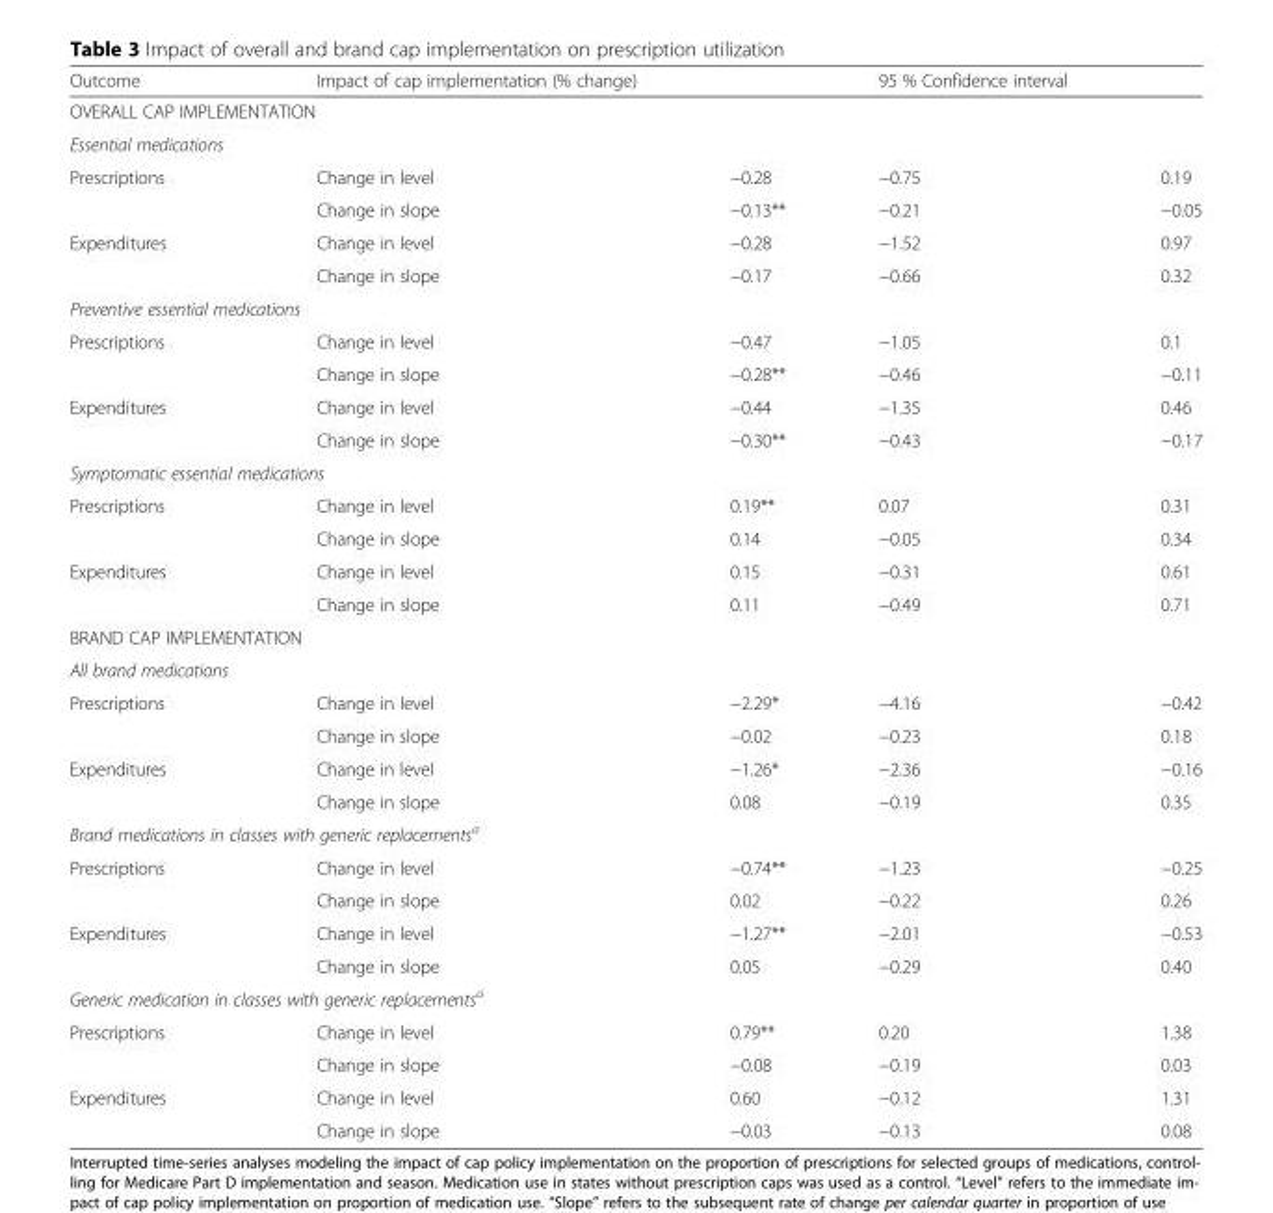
<table><thead><tr><td>Outcome</td><td>Impact of cap implementation (% change)</td><td></td><td>95 % Confidence interval</td><td></td></tr></thead><tbody><tr><td colspan="5">OVERALL CAP IMPLEMENTATION</td></tr><tr><td colspan="5">Essential medications</td></tr><tr><td rowspan="2">Prescriptions</td><td>Change in level</td><td>−0.28</td><td>−0.75</td><td>0.19</td></tr><tr><td>Change in slope</td><td>−0.13**</td><td>−0.21</td><td>−0.05</td></tr><tr><td rowspan="2">Expenditures</td><td>Change in level</td><td>−0.28</td><td>−1.52</td><td>0.97</td></tr><tr><td>Change in slope</td><td>−0.17</td><td>−0.66</td><td>0.32</td></tr><tr><td colspan="5">Preventive essential medications</td></tr><tr><td rowspan="2">Prescriptions</td><td>Change in level</td><td>−0.47</td><td>−1.05</td><td>0.1</td></tr><tr><td>Change in slope</td><td>−0.28**</td><td>−0.46</td><td>−0.11</td></tr><tr><td rowspan="2">Expenditures</td><td>Change in level</td><td>−0.44</td><td>−1.35</td><td>0.46</td></tr><tr><td>Change in slope</td><td>−0.30**</td><td>−0.43</td><td>−0.17</td></tr><tr><td colspan="5">Symptomatic essential medications</td></tr><tr><td rowspan="2">Prescriptions</td><td>Change in level</td><td>0.19**</td><td>0.07</td><td>0.31</td></tr><tr><td>Change in slope</td><td>0.14</td><td>−0.05</td><td>0.34</td></tr><tr><td rowspan="2">Expenditures</td><td>Change in level</td><td>0.15</td><td>−0.31</td><td>0.61</td></tr><tr><td>Change in slope</td><td>0.11</td><td>−0.49</td><td>0.71</td></tr><tr><td colspan="5">BRAND CAP IMPLEMENTATION</td></tr><tr><td colspan="5">All brand medications</td></tr><tr><td rowspan="2">Prescriptions</td><td>Change in level</td><td>−2.29*</td><td>−4.16</td><td>−0.42</td></tr><tr><td>Change in slope</td><td>−0.02</td><td>−0.23</td><td>0.18</td></tr><tr><td rowspan="2">Expenditures</td><td>Change in level</td><td>−1.26*</td><td>−2.36</td><td>−0.16</td></tr><tr><td>Change in slope</td><td>0.08</td><td>−0.19</td><td>0.35</td></tr><tr><td colspan="5">Brand medications in classes with generic replacements<sup>a</sup></td></tr><tr><td rowspan="2">Prescriptions</td><td>Change in level</td><td>−0.74**</td><td>−1.23</td><td>−0.25</td></tr><tr><td>Change in slope</td><td>0.02</td><td>−0.22</td><td>0.26</td></tr><tr><td rowspan="2">Expenditures</td><td>Change in level</td><td>−1.27**</td><td>−2.01</td><td>−0.53</td></tr><tr><td>Change in slope</td><td>0.05</td><td>−0.29</td><td>0.40</td></tr><tr><td colspan="5">Generic medication in classes with generic replacements<sup>a</sup></td></tr><tr><td rowspan="2">Prescriptions</td><td>Change in level</td><td>0.79**</td><td>0.20</td><td>1.38</td></tr><tr><td>Change in slope</td><td>−0.08</td><td>−0.19</td><td>0.03</td></tr><tr><td rowspan="2">Expenditures</td><td>Change in level</td><td>0.60</td><td>−0.12</td><td>1.31</td></tr><tr><td>Change in slope</td><td>−0.03</td><td>−0.13</td><td>0.08</td></tr></tbody></table>